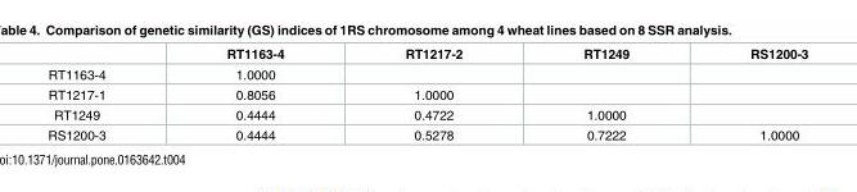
<table><thead><tr><td></td><td>RT1163-4</td><td>RT1217-2</td><td>RT1249</td><td>RS1200-3</td></tr></thead><tbody><tr><td>RT1163-4</td><td>1.0000</td><td></td><td></td><td></td></tr><tr><td>RT1217-1</td><td>0.8056</td><td>1.0000</td><td></td><td></td></tr><tr><td>RT1249</td><td>0.4444</td><td>0.4722</td><td>1.0000</td><td></td></tr><tr><td>RS1200-3</td><td>0.4444</td><td>0.5278</td><td>0.7222</td><td>1.0000</td></tr></tbody></table>